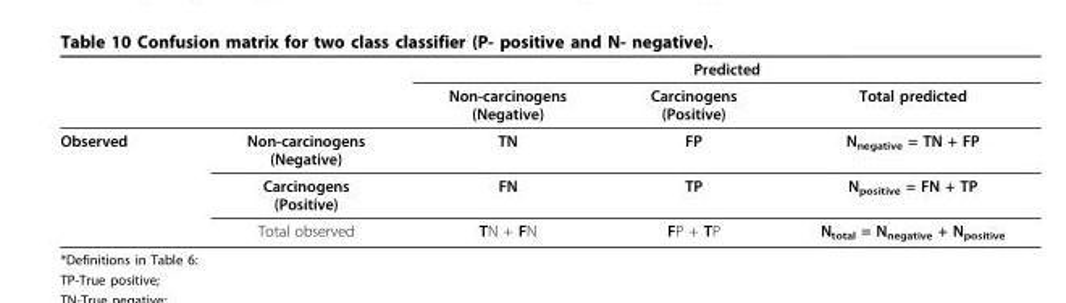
<table><thead><tr><td rowspan="2"></td><td rowspan="2"></td><td colspan="3">Predicted</td></tr><tr><td>Non-carcinogens (Negative)</td><td>Carcinogens (Positive)</td><td>Total predicted</td></tr></thead><tbody><tr><td rowspan="3">Observed</td><td>Non-carcinogens (Negative)</td><td>TN</td><td>FP</td><td>N<sub>negative</sub> = TN + FP</td></tr><tr><td>Carcinogens (Positive)</td><td>FN</td><td>TP</td><td>N<sub>positive</sub> = FN + TP</td></tr><tr><td>Total observed</td><td>TN + FN</td><td>FP + TP</td><td>N<sub>total</sub> = N<sub>negative</sub> + N<sub>positive</sub></td></tr></tbody></table>